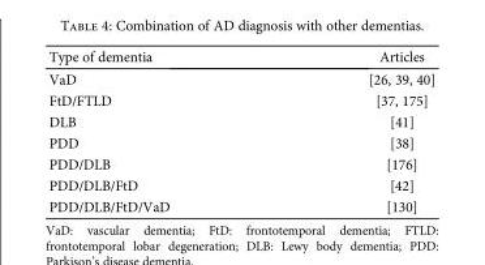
<table><thead><tr><td>Type of dementia</td><td>Articles</td></tr></thead><tbody><tr><td>VaD</td><td>[26, 39, 40]</td></tr><tr><td>FtD/FTLD</td><td>[37, 175]</td></tr><tr><td>DLB</td><td>[41]</td></tr><tr><td>PDD</td><td>[38]</td></tr><tr><td>PDD/DLB</td><td>[176]</td></tr><tr><td>PDD/DLB/FtD</td><td>[42]</td></tr><tr><td>PDD/DLB/FtD/VaD</td><td>[130]</td></tr></tbody></table>